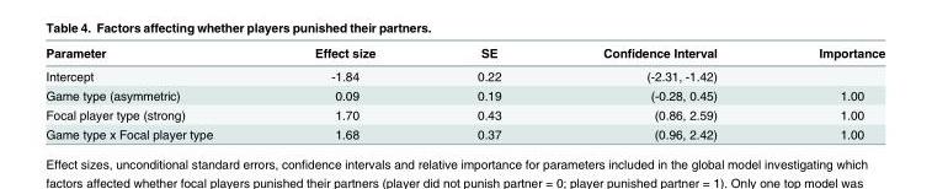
<table><thead><tr><td>Parameter</td><td>Effect size</td><td>SE</td><td>Confidence Interval</td><td>Importance</td></tr></thead><tbody><tr><td>Intercept</td><td>-1.84</td><td>0.22</td><td>(-2.31, -1.42)</td><td></td></tr><tr><td>Game type (asymmetric)</td><td>0.09</td><td>0.19</td><td>(-0.28, 0.45)</td><td>1.00</td></tr><tr><td>Focal player type (strong)</td><td>1.70</td><td>0.43</td><td>(0.86, 2.59)</td><td>1.00</td></tr><tr><td>Game type x Focal player type</td><td>1.68</td><td>0.37</td><td>(0.96, 2.42)</td><td>1.00</td></tr></tbody></table>